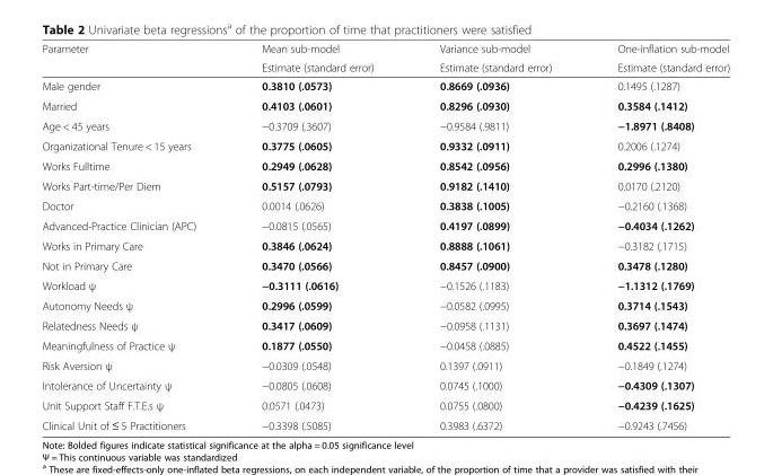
<table><thead><tr><td rowspan="2">Parameter</td><td rowspan="2">Mean sub-model Estimate (standard error)</td><td rowspan="2">Variance sub-model Estimate (standard error)</td><td rowspan="2">One-inflation sub-model Estimate (standard error)</td></tr><tr></tr></thead><tbody><tr><td>Male gender</td><td>0.3810 (.0573)</td><td>0.8669 (.0936)</td><td>0.1495 (.1287)</td></tr><tr><td>Married</td><td>0.4103 (.0601)</td><td>0.8296 (.0930)</td><td>0.3584 (.1412)</td></tr><tr><td>Age &lt; 45 years</td><td>−0.3709 (.3607)</td><td>−0.9584 (.9811)</td><td>−1.8971 (.8408)</td></tr><tr><td>Organizational Tenure &lt; 15 years</td><td>0.3775 (.0605)</td><td>0.9332 (.0911)</td><td>0.2006 (.1274)</td></tr><tr><td>Works Fulltime</td><td>0.2949 (.0628)</td><td>0.8542 (.0956)</td><td>0.2996 (.1380)</td></tr><tr><td>Works Part-time/Per Diem</td><td>0.5157 (.0793)</td><td>0.9182 (.1410)</td><td>0.0170 (.2120)</td></tr><tr><td>Doctor</td><td>0.0014 (.0626)</td><td>0.3838 (.1005)</td><td>−0.2160 (.1368)</td></tr><tr><td>Advanced-Practice Clinician (APC)</td><td>−0.0815 (.0565)</td><td>0.4197 (.0899)</td><td>−0.4034 (.1262)</td></tr><tr><td>Works in Primary Care</td><td>0.3846 (.0624)</td><td>0.8888 (.1061)</td><td>−0.3182 (.1715)</td></tr><tr><td>Not in Primary Care</td><td>0.3470 (.0566)</td><td>0.8457 (.0900)</td><td>0.3478 (.1280)</td></tr><tr><td>Workload ψ</td><td>−0.3111 (.0616)</td><td>−0.1526 (.1183)</td><td>−1.1312 (.1769)</td></tr><tr><td>Autonomy Needs ψ</td><td>0.2996 (.0599)</td><td>−0.0582 (.0995)</td><td>0.3714 (.1543)</td></tr><tr><td>Relatedness Needs ψ</td><td>0.3417 (.0609)</td><td>−0.0958 (.1131)</td><td>0.3697 (.1474)</td></tr><tr><td>Meaningfulness of Practice ψ</td><td>0.1877 (.0550)</td><td>−0.0458 (.0885)</td><td>0.4522 (.1455)</td></tr><tr><td>Risk Aversion ψ</td><td>−0.0309 (.0548)</td><td>0.1397 (.0911)</td><td>−0.1849 (.1274)</td></tr><tr><td>Intolerance of Uncertainty ψ</td><td>−0.0805 (.0608)</td><td>0.0745 (.1000)</td><td>−0.4309 (.1307)</td></tr><tr><td>Unit Support Staff F.T.E.s ψ</td><td>0.0571 (.0473)</td><td>0.0755 (.0800)</td><td>−0.4239 (.1625)</td></tr><tr><td>Clinical Unit of ≤ 5 Practitioners</td><td>−0.3398 (.5085)</td><td>0.3983 (.6372)</td><td>−0.9243 (.7456)</td></tr></tbody></table>